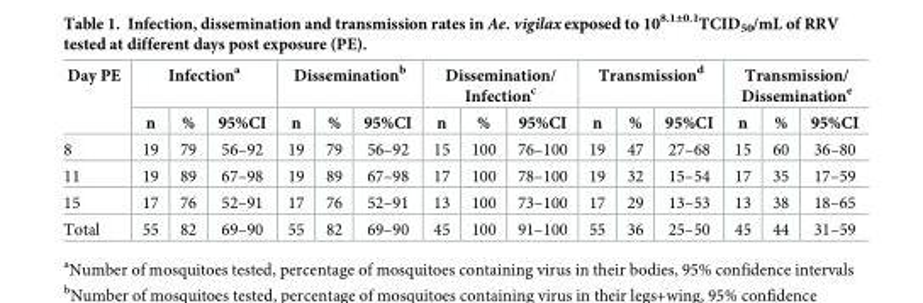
<table><thead><tr><td rowspan="2">Day PE</td><td colspan="3">Infection<sup>a</sup></td><td colspan="3">Dissemination<sup>b</sup></td><td colspan="3">Dissemination/ Infection<sup>c</sup></td><td colspan="3">Transmission<sup>d</sup></td><td colspan="3">Transmission/ Dissemination<sup>e</sup></td></tr><tr><td>n</td><td>%</td><td>95%CI</td><td>n</td><td>%</td><td>95%CI</td><td>n</td><td>%</td><td>95%CI</td><td>n</td><td>%</td><td>95%CI</td><td>n</td><td>%</td><td>95%CI</td></tr></thead><tbody><tr><td>8</td><td>19</td><td>79</td><td>56–92</td><td>19</td><td>79</td><td>56–92</td><td>15</td><td>100</td><td>76–100</td><td>19</td><td>47</td><td>27–68</td><td>15</td><td>60</td><td>36–80</td></tr><tr><td>11</td><td>19</td><td>89</td><td>67–98</td><td>19</td><td>89</td><td>67–98</td><td>17</td><td>100</td><td>78–100</td><td>19</td><td>32</td><td>15–54</td><td>17</td><td>35</td><td>17–59</td></tr><tr><td>15</td><td>17</td><td>76</td><td>52–91</td><td>17</td><td>76</td><td>52–91</td><td>13</td><td>100</td><td>73–100</td><td>17</td><td>29</td><td>13–53</td><td>13</td><td>38</td><td>18–65</td></tr><tr><td>Total</td><td>55</td><td>82</td><td>69–90</td><td>55</td><td>82</td><td>69–90</td><td>45</td><td>100</td><td>91–100</td><td>55</td><td>36</td><td>25–50</td><td>45</td><td>44</td><td>31–59</td></tr></tbody></table>